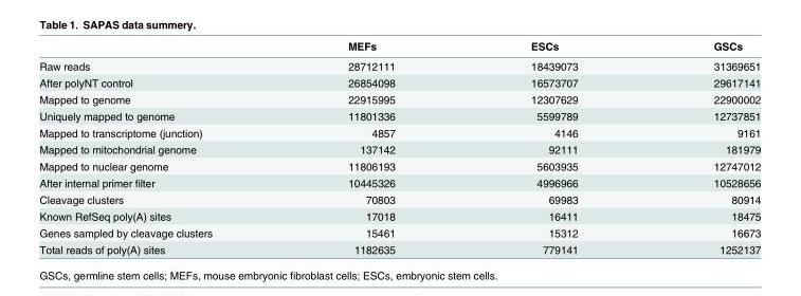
<table><thead><tr><td></td><td>MEFs</td><td>ESCs</td><td>GSCs</td></tr></thead><tbody><tr><td>Raw reads</td><td>28712111</td><td>18439073</td><td>31369651</td></tr><tr><td>After polyNT control</td><td>26854098</td><td>16573707</td><td>29617141</td></tr><tr><td>Mapped to genome</td><td>22915995</td><td>12307629</td><td>22900002</td></tr><tr><td>Uniquely mapped to genome</td><td>11801336</td><td>5599789</td><td>12737851</td></tr><tr><td>Mapped to transcriptome (junction)</td><td>4857</td><td>4146</td><td>9161</td></tr><tr><td>Mapped to mitochondrial genome</td><td>137142</td><td>92111</td><td>181979</td></tr><tr><td>Mapped to nuclear genome</td><td>11806193</td><td>5603935</td><td>12747012</td></tr><tr><td>After internal primer filter</td><td>10445326</td><td>4996966</td><td>10528656</td></tr><tr><td>Cleavage clusters</td><td>70803</td><td>69983</td><td>80914</td></tr><tr><td>Known RefSeq poly(A) sites</td><td>17018</td><td>16411</td><td>18475</td></tr><tr><td>Genes sampled by cleavage clusters</td><td>15461</td><td>15312</td><td>16673</td></tr><tr><td>Total reads of poly(A) sites</td><td>1182635</td><td>779141</td><td>1252137</td></tr></tbody></table>